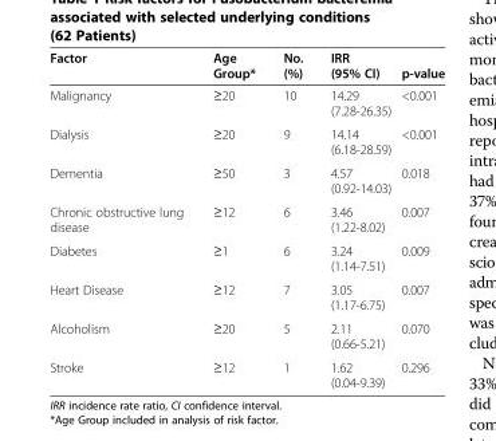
<table><thead><tr><td>Factor</td><td>Age Group*</td><td>No. (%)</td><td>IRR (95% CI)</td><td>p-value</td></tr></thead><tbody><tr><td>Malignancy</td><td>≥20</td><td>10</td><td>14.29 (7.28-26.35)</td><td>&lt;0.001</td></tr><tr><td>Dialysis</td><td>≥20</td><td>9</td><td>14.14 (6.18-28.59)</td><td>&lt;0.001</td></tr><tr><td>Dementia</td><td>≥50</td><td>3</td><td>4.57 (0.92-14.03)</td><td>0.018</td></tr><tr><td>Chronic obstructive lung disease</td><td>≥12</td><td>6</td><td>3.46 (1.22-8.02)</td><td>0.007</td></tr><tr><td>Diabetes</td><td>≥1</td><td>6</td><td>3.24 (1.14-7.51)</td><td>0.009</td></tr><tr><td>Heart Disease</td><td>≥12</td><td>7</td><td>3.05 (1.17-6.75)</td><td>0.007</td></tr><tr><td>Alcoholism</td><td>≥20</td><td>5</td><td>2.11 (0.66-5.21)</td><td>0.070</td></tr><tr><td>Stroke</td><td>≥12</td><td>1</td><td>1.62 (0.04-9.39)</td><td>0.296</td></tr></tbody></table>